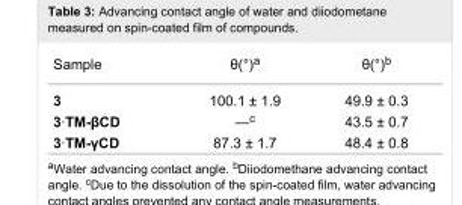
<table><tbody><tr><td>Sample</td><td>θ(°)<sup>a</sup></td><td>θ(°)<sup>b</sup></td></tr><tr><td>3</td><td>100.1 ± 1.9</td><td>49.9 ± 0.3</td></tr><tr><td>3·TM-βCD</td><td>—<sup>c</sup></td><td>43.5 ± 0.7</td></tr><tr><td>3·TM-γCD</td><td>87.3 ± 1.7</td><td>48.4 ± 0.8</td></tr></tbody></table>